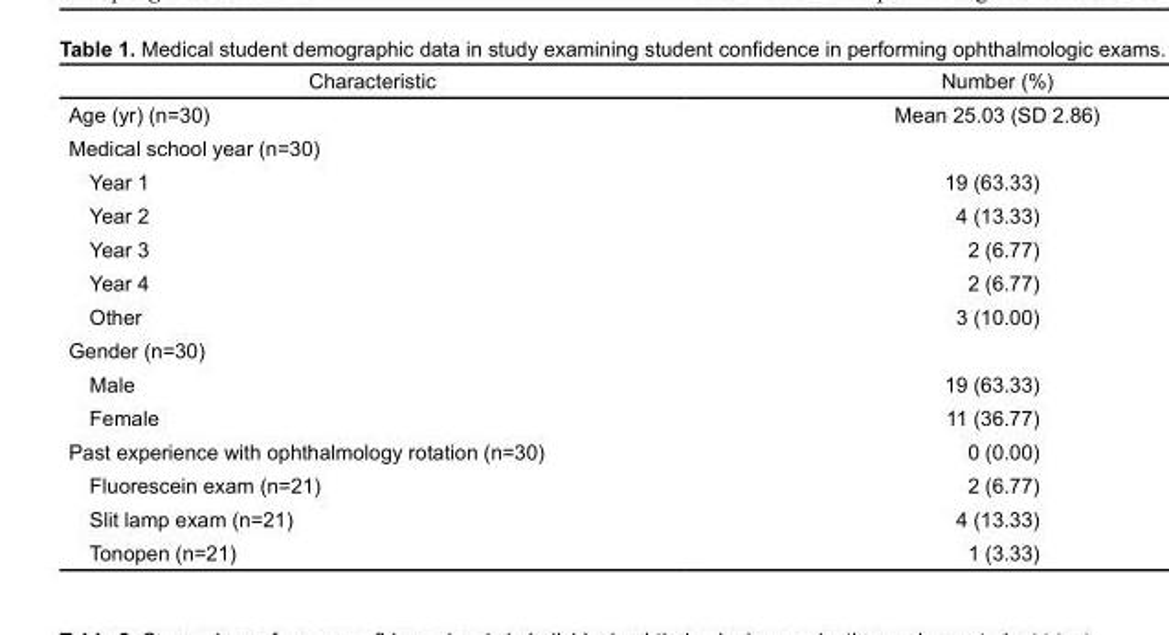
<table><thead><tr><td>Characteristic</td><td>Number (%)</td></tr></thead><tbody><tr><td>Age (yr) (n=30)</td><td>Mean 25.03 (SD 2.86)</td></tr><tr><td colspan="2">Medical school year (n=30)</td></tr><tr><td>Year 1</td><td>19 (63.33)</td></tr><tr><td>Year 2</td><td>4 (13.33)</td></tr><tr><td>Year 3</td><td>2 (6.77)</td></tr><tr><td>Year 4</td><td>2 (6.77)</td></tr><tr><td>Other</td><td>3 (10.00)</td></tr><tr><td colspan="2">Gender (n=30)</td></tr><tr><td>Male</td><td>19 (63.33)</td></tr><tr><td>Female</td><td>11 (36.77)</td></tr><tr><td>Past experience with ophthalmology rotation (n=30)</td><td>0 (0.00)</td></tr><tr><td>Fluorescein exam (n=21)</td><td>2 (6.77)</td></tr><tr><td>Slit lamp exam (n=21)</td><td>4 (13.33)</td></tr><tr><td>Tonopen (n=21)</td><td>1 (3.33)</td></tr></tbody></table>